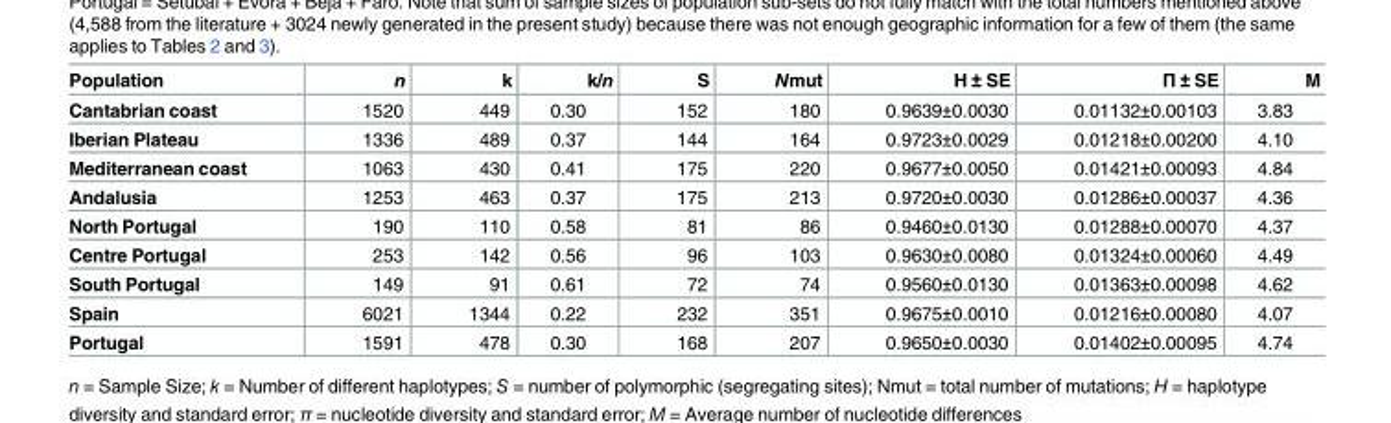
<table><thead><tr><td>Population</td><td>n</td><td>k</td><td>k/n</td><td>S</td><td>Nmut</td><td>H ± SE</td><td>Π ± SE</td><td>M</td></tr></thead><tbody><tr><td>Cantabrian coast</td><td>1520</td><td>449</td><td>0.30</td><td>152</td><td>180</td><td>0.9639±0.0030</td><td>0.01132±0.00103</td><td>3.83</td></tr><tr><td>Iberian Plateau</td><td>1336</td><td>489</td><td>0.37</td><td>144</td><td>164</td><td>0.9723±0.0029</td><td>0.01218±0.00200</td><td>4.10</td></tr><tr><td>Mediterranean coast</td><td>1063</td><td>430</td><td>0.41</td><td>175</td><td>220</td><td>0.9677±0.0050</td><td>0.01421±0.00093</td><td>4.84</td></tr><tr><td>Andalusia</td><td>1253</td><td>463</td><td>0.37</td><td>175</td><td>213</td><td>0.9720±0.0030</td><td>0.01286±0.00037</td><td>4.36</td></tr><tr><td>North Portugal</td><td>190</td><td>110</td><td>0.58</td><td>81</td><td>86</td><td>0.9460±0.0130</td><td>0.01288±0.00070</td><td>4.37</td></tr><tr><td>Centre Portugal</td><td>253</td><td>142</td><td>0.56</td><td>96</td><td>103</td><td>0.9630±0.0080</td><td>0.01324±0.00060</td><td>4.49</td></tr><tr><td>South Portugal</td><td>149</td><td>91</td><td>0.61</td><td>72</td><td>74</td><td>0.9560±0.0130</td><td>0.01363±0.00098</td><td>4.62</td></tr><tr><td>Spain</td><td>6021</td><td>1344</td><td>0.22</td><td>232</td><td>351</td><td>0.9675±0.0010</td><td>0.01216±0.00080</td><td>4.07</td></tr><tr><td>Portugal</td><td>1591</td><td>478</td><td>0.30</td><td>168</td><td>207</td><td>0.9650±0.0030</td><td>0.01402±0.00095</td><td>4.74</td></tr></tbody></table>